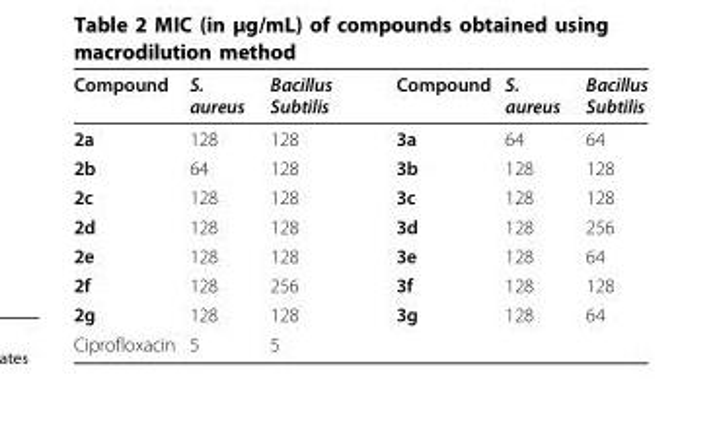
<table><thead><tr><td>Compound</td><td>S. aureus</td><td>Bacillus Subtilis</td><td>Compound</td><td>S. aureus</td><td>Bacillus Subtilis</td></tr></thead><tbody><tr><td>2a</td><td>128</td><td>128</td><td>3a</td><td>64</td><td>64</td></tr><tr><td>2b</td><td>64</td><td>128</td><td>3b</td><td>128</td><td>128</td></tr><tr><td>2c</td><td>128</td><td>128</td><td>3c</td><td>128</td><td>128</td></tr><tr><td>2d</td><td>128</td><td>128</td><td>3d</td><td>128</td><td>256</td></tr><tr><td>2e</td><td>128</td><td>128</td><td>3e</td><td>128</td><td>64</td></tr><tr><td>2f</td><td>128</td><td>256</td><td>3f</td><td>128</td><td>128</td></tr><tr><td>2g</td><td>128</td><td>128</td><td>3g</td><td>128</td><td>64</td></tr><tr><td>Ciprofloxacin</td><td>5</td><td>5</td><td></td><td></td><td></td></tr></tbody></table>